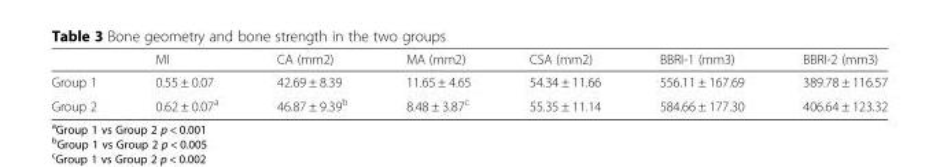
<table><thead><tr><td></td><td>MI</td><td>CA (mm2)</td><td>MA (mm2)</td><td>CSA (mm2)</td><td>BBRI-1 (mm3)</td><td>BBRI-2 (mm3)</td></tr></thead><tbody><tr><td>Group 1</td><td>0.55 ± 0.07</td><td>42.69 ± 8.39</td><td>11.65 ± 4.65</td><td>54.34 ± 11.66</td><td>556.11 ± 167.69</td><td>389.78 ± 116.57</td></tr><tr><td>Group 2</td><td>0.62 ± 0.07<sup>a</sup></td><td>46.87 ± 9.39<sup>b</sup></td><td>8.48 ± 3.87<sup>c</sup></td><td>55.35 ± 11.14</td><td>584.66 ± 177.30</td><td>406.64 ± 123.32</td></tr></tbody></table>